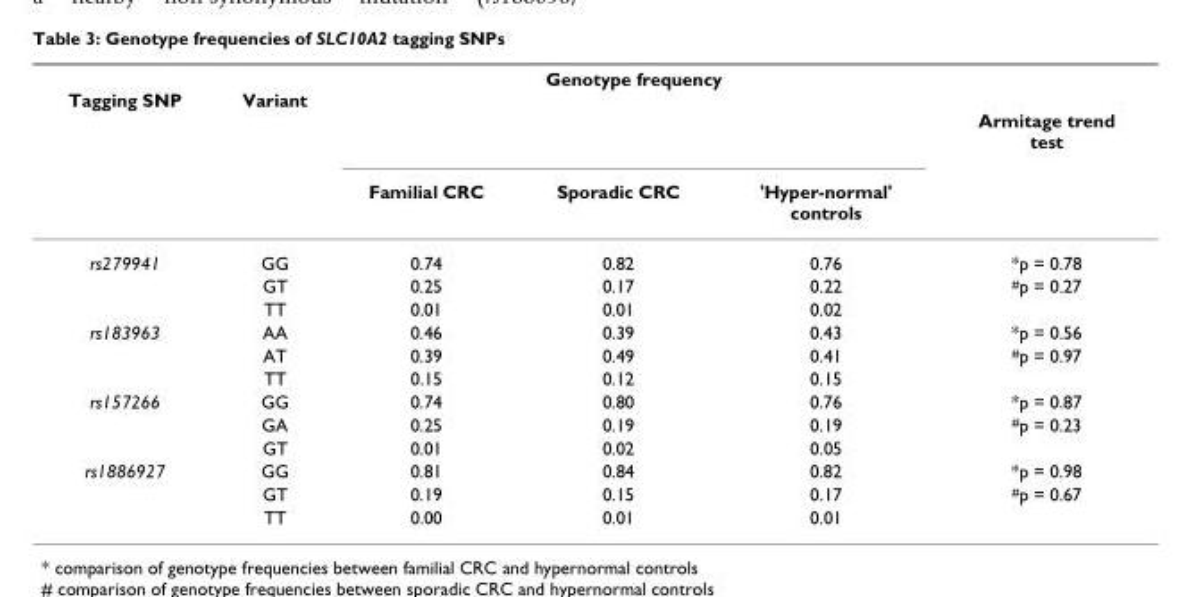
<table><thead><tr><td rowspan="2">Tagging SNP</td><td rowspan="2">Variant</td><td colspan="3">Genotype frequency</td><td rowspan="2">Armitage trend test</td></tr><tr><td>Familial CRC</td><td>Sporadic CRC</td><td>&#x27;Hyper-normal&#x27; controls</td></tr></thead><tbody><tr><td rowspan="3">rs279941</td><td>GG</td><td>0.74</td><td>0.82</td><td>0.76</td><td>*p = 0.78</td></tr><tr><td>GT</td><td>0.25</td><td>0.17</td><td>0.22</td><td><sup>#</sup>p = 0.27</td></tr><tr><td>TT</td><td>0.01</td><td>0.01</td><td>0.02</td><td></td></tr><tr><td rowspan="3">rs183963</td><td>AA</td><td>0.46</td><td>0.39</td><td>0.43</td><td>*p = 0.56</td></tr><tr><td>AT</td><td>0.39</td><td>0.49</td><td>0.41</td><td><sup>#</sup>p = 0.97</td></tr><tr><td>TT</td><td>0.15</td><td>0.12</td><td>0.15</td><td></td></tr><tr><td rowspan="3">rs157266</td><td>GG</td><td>0.74</td><td>0.80</td><td>0.76</td><td>*p = 0.87</td></tr><tr><td>GA</td><td>0.25</td><td>0.19</td><td>0.19</td><td><sup>#</sup>p = 0.23</td></tr><tr><td>GT</td><td>0.01</td><td>0.02</td><td>0.05</td><td></td></tr><tr><td rowspan="3">rs1886927</td><td>GG</td><td>0.81</td><td>0.84</td><td>0.82</td><td>*p = 0.98</td></tr><tr><td>GT</td><td>0.19</td><td>0.15</td><td>0.17</td><td><sup>#</sup>p = 0.67</td></tr><tr><td>TT</td><td>0.00</td><td>0.01</td><td>0.01</td><td></td></tr></tbody></table>